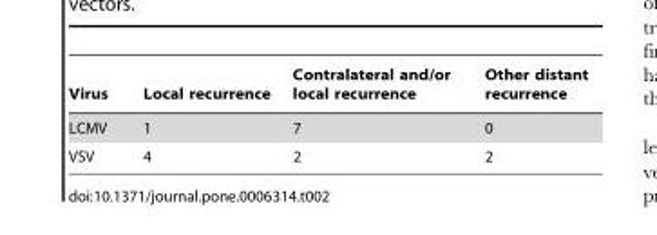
<table><thead><tr><td>Virus</td><td>Local recurrence</td><td>Contralateral and/or local recurrence</td><td>Other distant recurrence</td></tr></thead><tbody><tr><td>LCMV</td><td>1</td><td>7</td><td>0</td></tr><tr><td>VSV</td><td>4</td><td>2</td><td>2</td></tr></tbody></table>